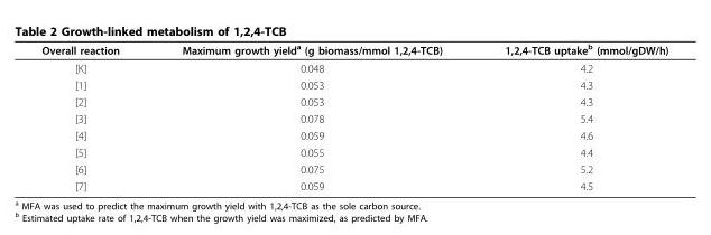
<table><thead><tr><td>Overall reaction</td><td>Maximum growth yield<sup>a</sup> (g biomass/mmol 1,2,4-TCB)</td><td>1,2,4-TCB uptake<sup>b</sup> (mmol/gDW/h)</td></tr></thead><tbody><tr><td>[K]</td><td>0.048</td><td>4.2</td></tr><tr><td>[1]</td><td>0.053</td><td>4.3</td></tr><tr><td>[2]</td><td>0.053</td><td>4.3</td></tr><tr><td>[3]</td><td>0.078</td><td>5.4</td></tr><tr><td>[4]</td><td>0.059</td><td>4.6</td></tr><tr><td>[5]</td><td>0.055</td><td>4.4</td></tr><tr><td>[6]</td><td>0.075</td><td>5.2</td></tr><tr><td>[7]</td><td>0.059</td><td>4.5</td></tr></tbody></table>